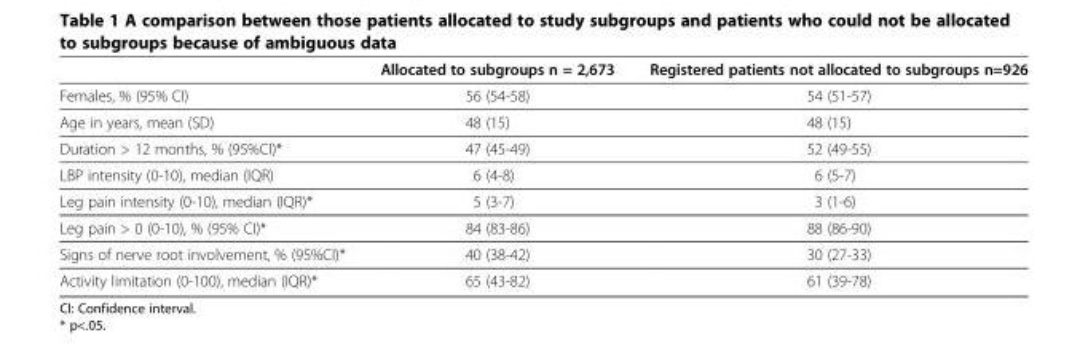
<table><thead><tr><td></td><td>Allocated to subgroups n = 2,673</td><td>Registered patients not allocated to subgroups n=926</td></tr></thead><tbody><tr><td>Females, % (95% CI)</td><td>56 (54-58)</td><td>54 (51-57)</td></tr><tr><td>Age in years, mean (SD)</td><td>48 (15)</td><td>48 (15)</td></tr><tr><td>Duration &gt; 12 months, % (95%CI)*</td><td>47 (45-49)</td><td>52 (49-55)</td></tr><tr><td>LBP intensity (0-10), median (IQR)</td><td>6 (4-8)</td><td>6 (5-7)</td></tr><tr><td>Leg pain intensity (0-10), median (IQR)*</td><td>5 (3-7)</td><td>3 (1-6)</td></tr><tr><td>Leg pain &gt; 0 (0-10), % (95% CI)*</td><td>84 (83-86)</td><td>88 (86-90)</td></tr><tr><td>Signs of nerve root involvement, % (95%CI)*</td><td>40 (38-42)</td><td>30 (27-33)</td></tr><tr><td>Activity limitation (0-100), median (IQR)*</td><td>65 (43-82)</td><td>61 (39-78)</td></tr></tbody></table>